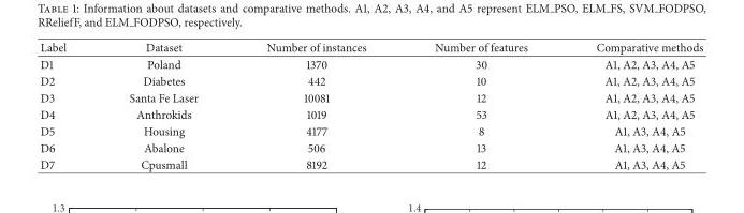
<table><thead><tr><td>Label</td><td>Dataset</td><td>Number of instances</td><td>Number of features</td><td>Comparative methods</td></tr></thead><tbody><tr><td>D1</td><td>Poland</td><td>1370</td><td>30</td><td>A1, A2, A3, A4, A5</td></tr><tr><td>D2</td><td>Diabetes</td><td>442</td><td>10</td><td>A1, A2, A3, A4, A5</td></tr><tr><td>D3</td><td>Santa Fe Laser</td><td>10081</td><td>12</td><td>A1, A2, A3, A4, A5</td></tr><tr><td>D4</td><td>Anthrokids</td><td>1019</td><td>53</td><td>A1, A2, A3, A4, A5</td></tr><tr><td>D5</td><td>Housing</td><td>4177</td><td>8</td><td>A1, A3, A4, A5</td></tr><tr><td>D6</td><td>Abalone</td><td>506</td><td>13</td><td>A1, A3, A4, A5</td></tr><tr><td>D7</td><td>Cpusmall</td><td>8192</td><td>12</td><td>A1, A3, A4, A5</td></tr></tbody></table>